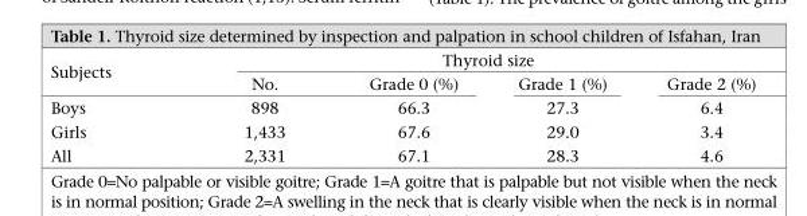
<table><thead><tr><td rowspan="2">Subjects</td><td colspan="4">Thyroid size</td></tr><tr><td>No.</td><td>Grade 0 (%)</td><td>Grade 1 (%)</td><td>Grade 2 (%)</td></tr></thead><tbody><tr><td>Boys</td><td>898</td><td>66.3</td><td>27.3</td><td>6.4</td></tr><tr><td>Girls</td><td>1,433</td><td>67.6</td><td>29.0</td><td>3.4</td></tr><tr><td>All</td><td>2,331</td><td>67.1</td><td>28.3</td><td>4.6</td></tr></tbody></table>